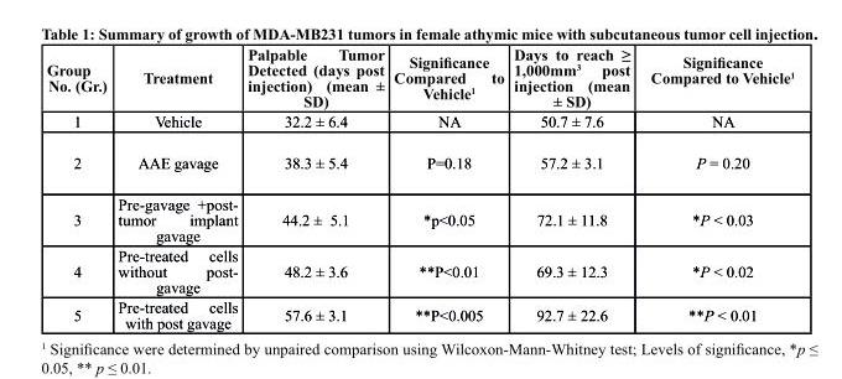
<table><thead><tr><td>Group no. (Gr.)</td><td>treatment</td><td>Palpable tumor detected (days post injection) (mean ± sd)</td><td>Significance compared to Vehicle<sup>1</sup></td><td>Days to reach ≥ 1,000mm<sup>3</sup> post injection (mean ± sd)</td><td>Significance compared to Vehicle<sup>1</sup></td></tr></thead><tbody><tr><td>1</td><td>Vehicle</td><td>32.2 ± 6.4</td><td>NA</td><td>50.7 ± 7.6</td><td>NA</td></tr><tr><td>2</td><td>AAE gavage</td><td>38.3 ± 5.4</td><td>P=0.18</td><td>57.2 ± 3.1</td><td>P = 0.20</td></tr><tr><td>3</td><td>Pre-gavage +post- tumor implant gavage</td><td>44.2 ± 5.1</td><td>*p&lt;0.05</td><td>72.1 ± 11.8</td><td>*P &lt; 0.03</td></tr><tr><td>4</td><td>Pre-treated cells without post- gavage</td><td>48.2 ± 3.6</td><td>**P&lt;0.01</td><td>69.3 ± 12.3</td><td>*P &lt; 0.02</td></tr><tr><td>5</td><td>Pre-treated cells with post gavage</td><td>57.6 ± 3.1</td><td>**P&lt;0.005</td><td>92.7 ± 22.6</td><td>**P &lt; 0.01</td></tr></tbody></table>